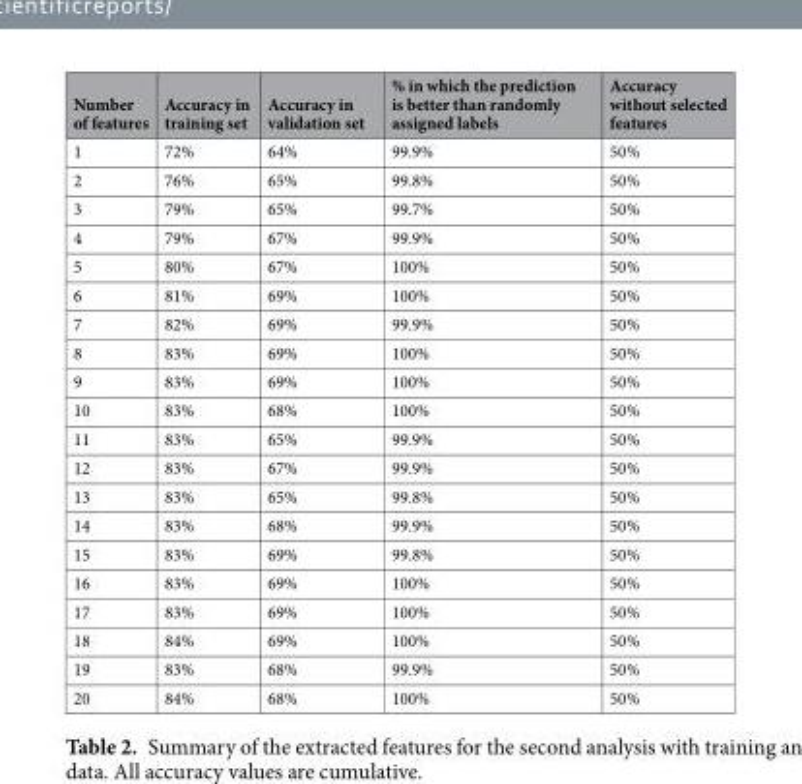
<table><thead><tr><td>Number of features</td><td>Accuracy in training set</td><td>Accuracy in validation set</td><td>% in which the prediction is better than randomly assigned labels</td><td>Accuracy without selected features</td></tr></thead><tbody><tr><td>1</td><td>72%</td><td>64%</td><td>99.9%</td><td>50%</td></tr><tr><td>2</td><td>76%</td><td>65%</td><td>99.8%</td><td>50%</td></tr><tr><td>3</td><td>79%</td><td>65%</td><td>99.7%</td><td>50%</td></tr><tr><td>4</td><td>79%</td><td>67%</td><td>99.9%</td><td>50%</td></tr><tr><td>5</td><td>80%</td><td>67%</td><td>100%</td><td>50%</td></tr><tr><td>6</td><td>81%</td><td>69%</td><td>100%</td><td>50%</td></tr><tr><td>7</td><td>82%</td><td>69%</td><td>99.9%</td><td>50%</td></tr><tr><td>8</td><td>83%</td><td>69%</td><td>100%</td><td>50%</td></tr><tr><td>9</td><td>83%</td><td>69%</td><td>100%</td><td>50%</td></tr><tr><td>10</td><td>83%</td><td>68%</td><td>100%</td><td>50%</td></tr><tr><td>11</td><td>83%</td><td>65%</td><td>99.9%</td><td>50%</td></tr><tr><td>12</td><td>83%</td><td>67%</td><td>99.9%</td><td>50%</td></tr><tr><td>13</td><td>83%</td><td>65%</td><td>99.8%</td><td>50%</td></tr><tr><td>14</td><td>83%</td><td>68%</td><td>99.9%</td><td>50%</td></tr><tr><td>15</td><td>83%</td><td>69%</td><td>99.8%</td><td>50%</td></tr><tr><td>16</td><td>83%</td><td>69%</td><td>100%</td><td>50%</td></tr><tr><td>17</td><td>83%</td><td>69%</td><td>100%</td><td>50%</td></tr><tr><td>18</td><td>84%</td><td>69%</td><td>100%</td><td>50%</td></tr><tr><td>19</td><td>83%</td><td>68%</td><td>99.9%</td><td>50%</td></tr><tr><td>20</td><td>84%</td><td>68%</td><td>100%</td><td>50%</td></tr></tbody></table>